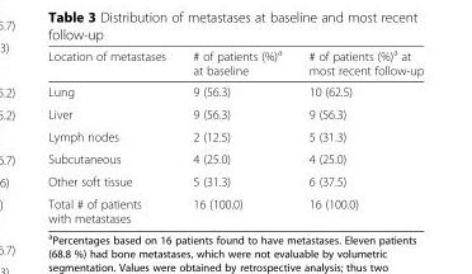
<table><thead><tr><td>Location of metastases</td><td># of patients (%)<sup>a</sup> at baseline</td><td># of patients (%)<sup>a</sup> at most recent follow-up</td></tr></thead><tbody><tr><td>Lung</td><td>9 (56.3)</td><td>10 (62.5)</td></tr><tr><td>Liver</td><td>9 (56.3)</td><td>9 (56.3)</td></tr><tr><td>Lymph nodes</td><td>2 (12.5)</td><td>5 (31.3)</td></tr><tr><td>Subcutaneous</td><td>4 (25.0)</td><td>4 (25.0)</td></tr><tr><td>Other soft tissue</td><td>5 (31.3)</td><td>6 (37.5)</td></tr><tr><td>Total # of patients with metastases</td><td>16 (100.0)</td><td>16 (100.0)</td></tr></tbody></table>